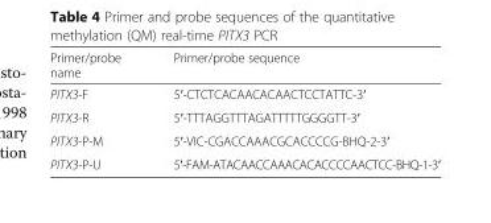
<table><thead><tr><td>Primer/probe name</td><td>Primer/probe sequence</td></tr></thead><tbody><tr><td>PITX3-F</td><td>5′-CTCTCACAACACAACTCCTATTC-3′</td></tr><tr><td>PITX3-R</td><td>5′-TTTAGGTTTAGATTTTTGGGGTT-3′</td></tr><tr><td>PITX3-P-M</td><td>5′-VIC-CGACCAAACGCACCCCG-BHQ-2-3′</td></tr><tr><td>PITX3-P-U</td><td>5′-FAM-ATACAACCAAACACACCCCAACTCC-BHQ-1-3′</td></tr></tbody></table>